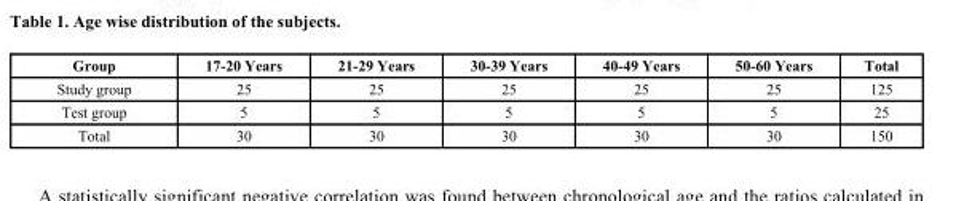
<table><thead><tr><td>Group</td><td>17-20 Years</td><td>21-29 Years</td><td>30-39 Years</td><td>40-49 Years</td><td>50-60 Years</td><td>Total</td></tr></thead><tbody><tr><td>Study group</td><td>25</td><td>25</td><td>25</td><td>25</td><td>25</td><td>125</td></tr><tr><td>Test group</td><td>5</td><td>5</td><td>5</td><td>5</td><td>5</td><td>25</td></tr><tr><td>Total</td><td>30</td><td>30</td><td>30</td><td>30</td><td>30</td><td>150</td></tr></tbody></table>